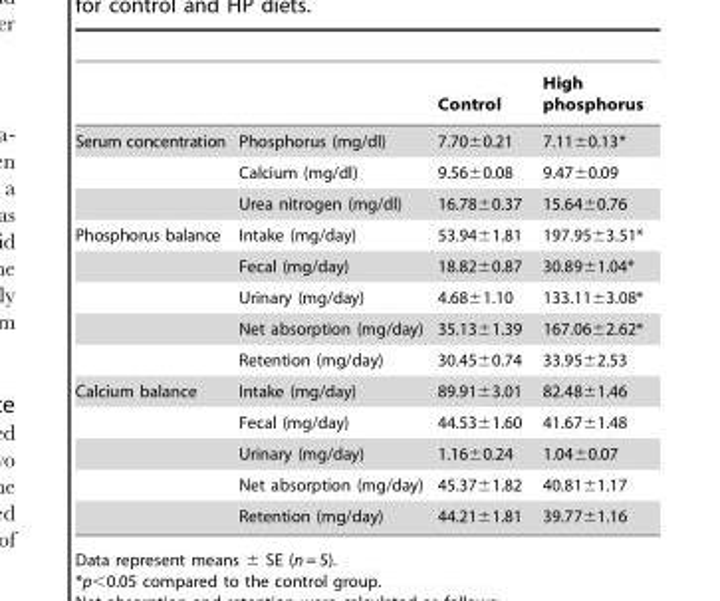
<table><thead><tr><td></td><td></td><td>Control</td><td>High phosphorus</td></tr></thead><tbody><tr><td rowspan="3">Serum concentration</td><td>Phosphorus (mg/dl)</td><td>7.70±0.21</td><td>7.11±0.13*</td></tr><tr><td>Calcium (mg/dl)</td><td>9.56±0.08</td><td>9.47±0.09</td></tr><tr><td>Urea nitrogen (mg/dl)</td><td>16.78±0.37</td><td>15.64±0.76</td></tr><tr><td rowspan="5">Phosphorus balance</td><td>Intake (mg/day)</td><td>53.94±1.81</td><td>197.95±3.51*</td></tr><tr><td>Fecal (mg/day)</td><td>18.82±0.87</td><td>30.89±1.04*</td></tr><tr><td>Urinary (mg/day)</td><td>4.68±1.10</td><td>133.11±3.08*</td></tr><tr><td>Net absorption (mg/day)</td><td>35.13±1.39</td><td>167.06±2.62*</td></tr><tr><td>Retention (mg/day)</td><td>30.45±0.74</td><td>33.95±2.53</td></tr><tr><td rowspan="5">Calcium balance</td><td>Intake (mg/day)</td><td>89.91±3.01</td><td>82.48±1.46</td></tr><tr><td>Fecal (mg/day)</td><td>44.53±1.60</td><td>41.67±1.48</td></tr><tr><td>Urinary (mg/day)</td><td>1.16±0.24</td><td>1.04±0.07</td></tr><tr><td>Net absorption (mg/day)</td><td>45.37±1.82</td><td>40.81±1.17</td></tr><tr><td>Retention (mg/day)</td><td>44.21±1.81</td><td>39.77±1.16</td></tr></tbody></table>